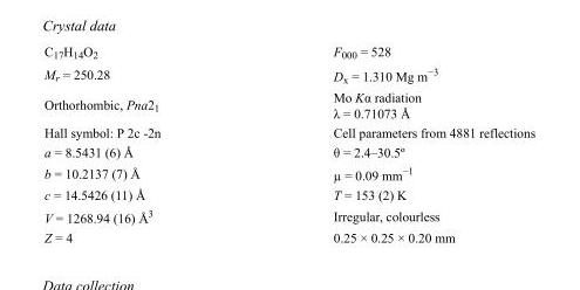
<table><tbody><tr><td>C<sub>17</sub>H<sub>14</sub>O<sub>2</sub></td><td>F<sub>000</sub> = 528</td></tr><tr><td>M<sub>r</sub> = 250.28</td><td>D<sub>x</sub> = 1.310 Mg m<sup>−3</sup></td></tr><tr><td>Orthorhombic, Pna2<sub>1</sub></td><td>Mo Kα radiation λ = 0.71073 Å</td></tr><tr><td>Hall symbol: P 2c -2n</td><td>Cell parameters from 4881 reflections</td></tr><tr><td>a = 8.5431 (6) Å</td><td>θ = 2.4–30.5º</td></tr><tr><td>b = 10.2137 (7) Å</td><td>µ = 0.09 mm<sup>−1</sup></td></tr><tr><td>c = 14.5426 (11) Å</td><td>T = 153 (2) K</td></tr><tr><td>V = 1268.94 (16) Å<sup>3</sup></td><td>Irregular, colourless</td></tr><tr><td>Z = 4</td><td>0.25 × 0.25 × 0.20 mm</td></tr></tbody></table>